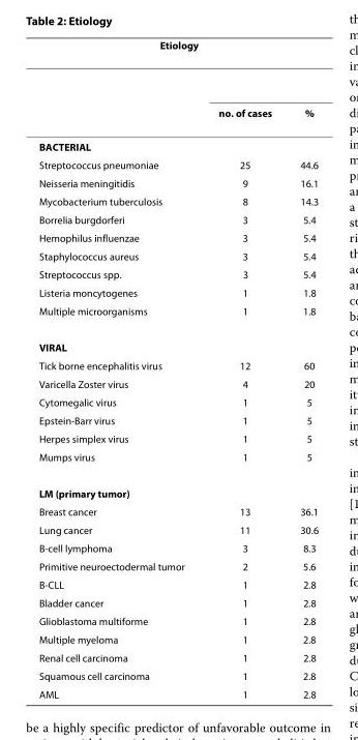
<table><thead><tr><td colspan="3">Etiology</td></tr><tr><td></td><td>no. of cases</td><td>%</td></tr></thead><tbody><tr><td colspan="3">BACTERIAL</td></tr><tr><td>Streptococcus pneumoniae</td><td>25</td><td>44.6</td></tr><tr><td>Neisseria meningitidis</td><td>9</td><td>16.1</td></tr><tr><td>Mycobacterium tuberculosis</td><td>8</td><td>14.3</td></tr><tr><td>Borrelia burgdorferi</td><td>3</td><td>5.4</td></tr><tr><td>Hemophilus influenzae</td><td>3</td><td>5.4</td></tr><tr><td>Staphylococcus aureus</td><td>3</td><td>5.4</td></tr><tr><td>Streptococcus spp.</td><td>3</td><td>5.4</td></tr><tr><td>Listeria moncytogenes</td><td>1</td><td>1.8</td></tr><tr><td>Multiple microorganisms</td><td>1</td><td>1.8</td></tr><tr><td colspan="3">VIRAL</td></tr><tr><td>Tick borne encephalitis virus</td><td>12</td><td>60</td></tr><tr><td>Varicella Zoster virus</td><td>4</td><td>20</td></tr><tr><td>Cytomegalic virus</td><td>1</td><td>5</td></tr><tr><td>Epstein-Barr virus</td><td>1</td><td>5</td></tr><tr><td>Herpes simplex virus</td><td>1</td><td>5</td></tr><tr><td>Mumps virus</td><td>1</td><td>5</td></tr><tr><td colspan="3">LM (primary tumor)</td></tr><tr><td>Breast cancer</td><td>13</td><td>36.1</td></tr><tr><td>Lung cancer</td><td>11</td><td>30.6</td></tr><tr><td>B-cell lymphoma</td><td>3</td><td>8.3</td></tr><tr><td>Primitive neuroectodermal tumor</td><td>2</td><td>5.6</td></tr><tr><td>B-CLL</td><td>1</td><td>2.8</td></tr><tr><td>Bladder cancer</td><td>1</td><td>2.8</td></tr><tr><td>Glioblastoma multiforme</td><td>1</td><td>2.8</td></tr><tr><td>Multiple myeloma</td><td>1</td><td>2.8</td></tr><tr><td>Renal cell carcinoma</td><td>1</td><td>2.8</td></tr><tr><td>Squamous cell carcinoma</td><td>1</td><td>2.8</td></tr><tr><td>AML</td><td>1</td><td>2.8</td></tr></tbody></table>